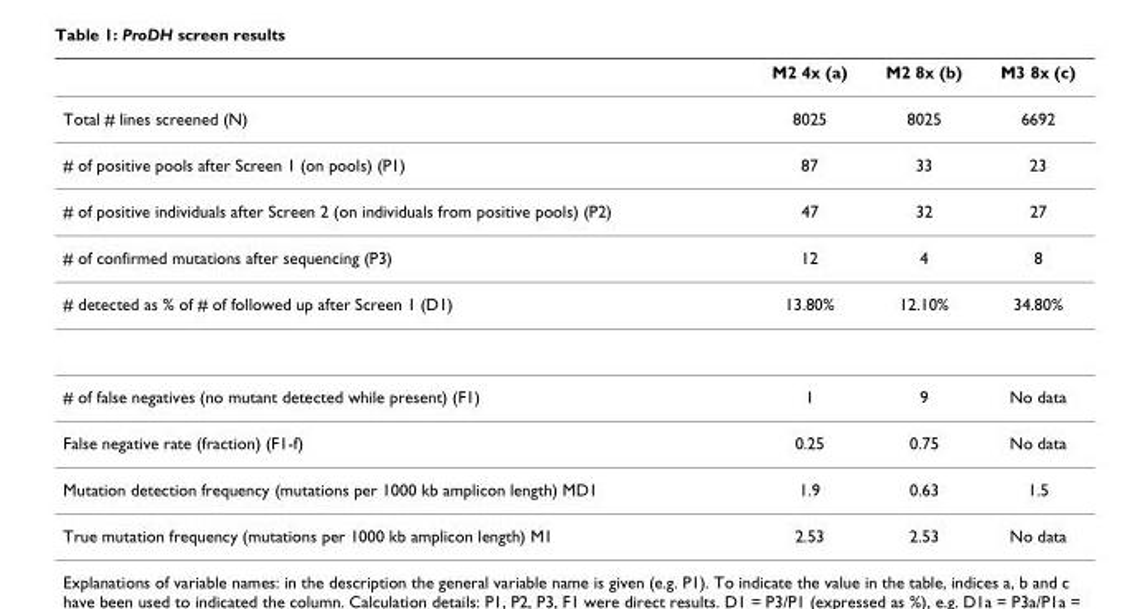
<table><thead><tr><td></td><td>M2 4x (a)</td><td>M2 8x (b)</td><td>M3 8x (c)</td></tr></thead><tbody><tr><td>Total # lines screened (N)</td><td>8025</td><td>8025</td><td>6692</td></tr><tr><td># of positive pools after Screen 1 (on pools) (P1)</td><td>87</td><td>33</td><td>23</td></tr><tr><td># of positive individuals after Screen 2 (on individuals from positive pools) (P2)</td><td>47</td><td>32</td><td>27</td></tr><tr><td># of confirmed mutations after sequencing (P3)</td><td>12</td><td>4</td><td>8</td></tr><tr><td># detected as % of # of followed up after Screen 1 (D1)</td><td>13.80%</td><td>12.10%</td><td>34.80%</td></tr><tr><td># of false negatives (no mutant detected while present) (F1)</td><td>1</td><td>9</td><td>No data</td></tr><tr><td>False negative rate (fraction) (F1-f)</td><td>0.25</td><td>0.75</td><td>No data</td></tr><tr><td>Mutation detection frequency (mutations per 1000 kb amplicon length) MD1</td><td>1.9</td><td>0.63</td><td>1.5</td></tr><tr><td>True mutation frequency (mutations per 1000 kb amplicon length) M1</td><td>2.53</td><td>2.53</td><td>No data</td></tr></tbody></table>